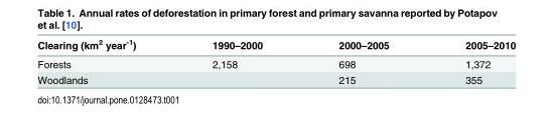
<table><thead><tr><td>Clearing (km<sup>2</sup> year<sup>-1</sup>)</td><td>1990–2000</td><td>2000–2005</td><td>2005–2010</td></tr></thead><tbody><tr><td>Forests</td><td>2,158</td><td>698</td><td>1,372</td></tr><tr><td>Woodlands</td><td></td><td>215</td><td>355</td></tr></tbody></table>